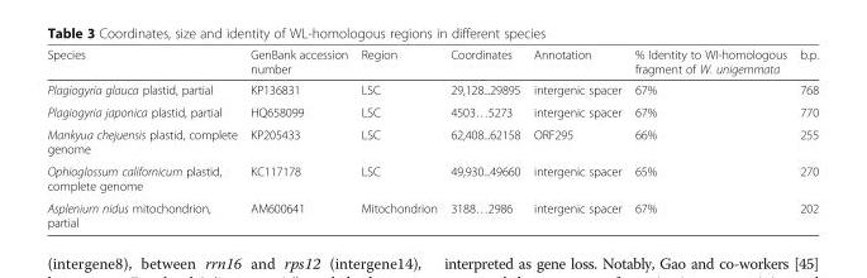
<table><thead><tr><td>Species</td><td>GenBank accession number</td><td>Region</td><td>Coordinates</td><td>Annotation</td><td>% Identity to WI-homologous fragment of W. unigemmata</td><td>b.p.</td></tr></thead><tbody><tr><td>Plagiogyria glauca plastid, partial</td><td>KP136831</td><td>LSC</td><td>29,128...29895</td><td>intergenic spacer</td><td>67%</td><td>768</td></tr><tr><td>Plagiogyria japonica plastid, partial</td><td>HQ658099</td><td>LSC</td><td>4503…5273</td><td>intergenic spacer</td><td>67%</td><td>770</td></tr><tr><td>Mankyua chejuensis plastid, complete genome</td><td>KP205433</td><td>LSC</td><td>62,408...62158</td><td>ORF295</td><td>66%</td><td>255</td></tr><tr><td>Ophioglossum californicum plastid, complete genome</td><td>KC117178</td><td>LSC</td><td>49,930...49660</td><td>intergenic spacer</td><td>65%</td><td>270</td></tr><tr><td>Asplenium nidus mitochondrion, partial</td><td>AM600641</td><td>Mitochondrion</td><td>3188…2986</td><td>intergenic spacer</td><td>67%</td><td>202</td></tr></tbody></table>